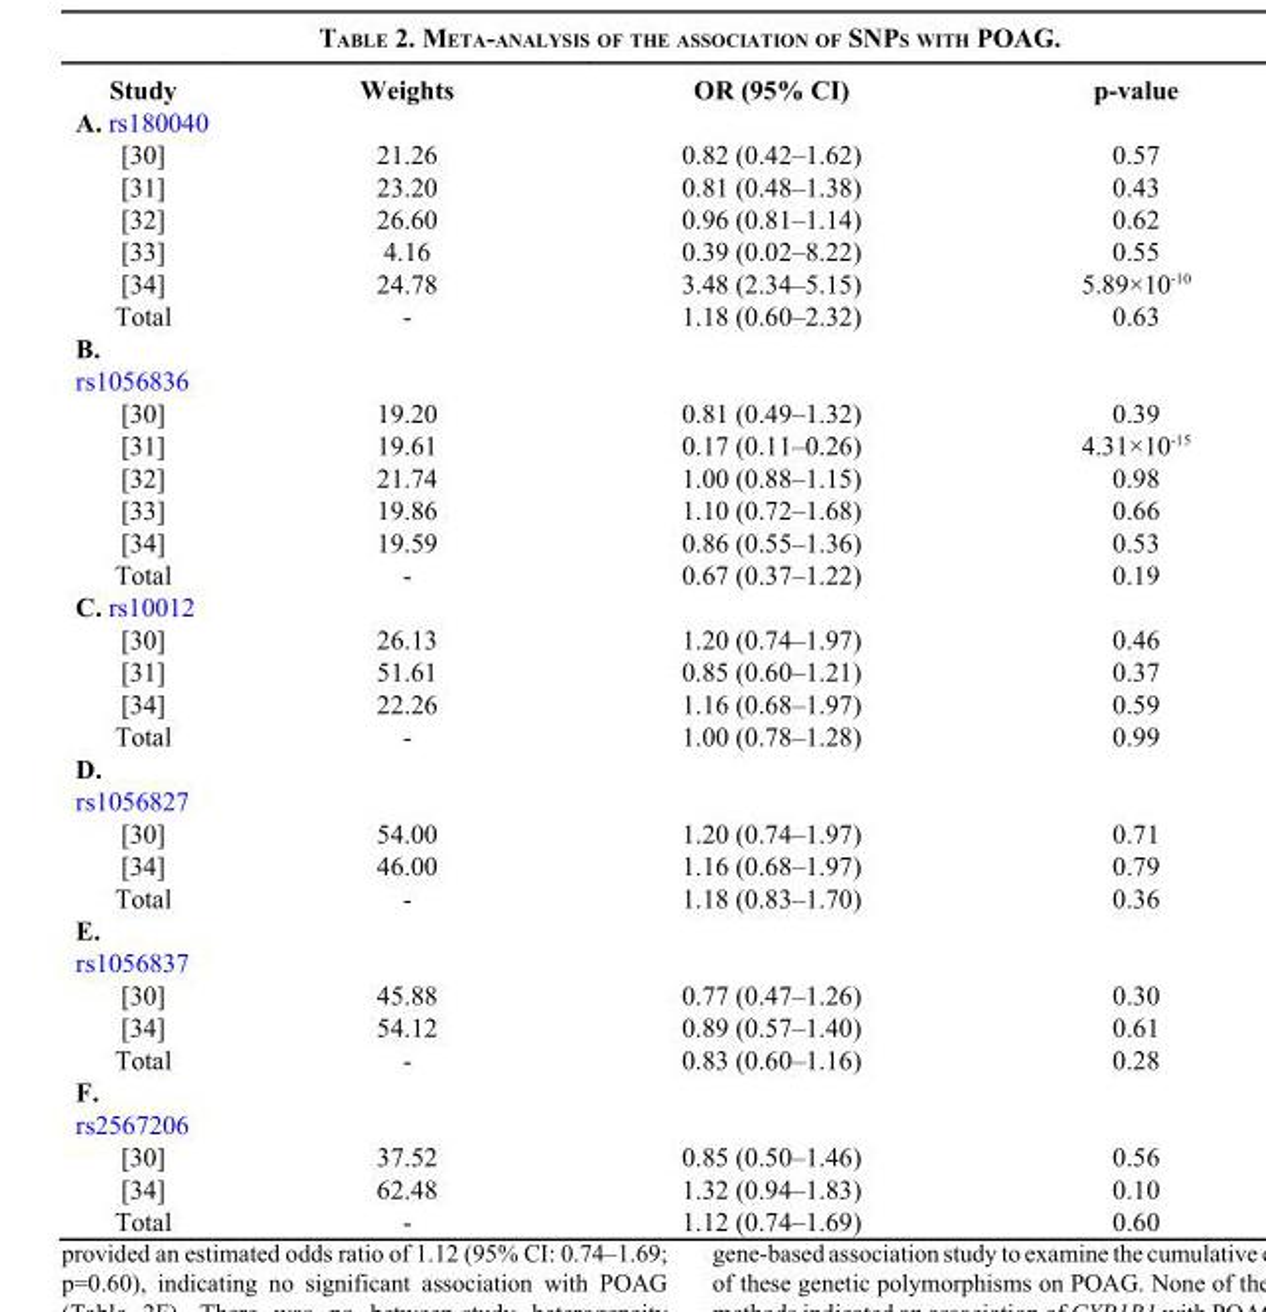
<table><thead><tr><td>Study</td><td>Weights</td><td>OR (95% CI)</td><td>p-value</td></tr></thead><tbody><tr><td colspan="4">A. rs180040</td></tr><tr><td>[30]</td><td>21.26</td><td>0.82 (0.42–1.62)</td><td>0.57</td></tr><tr><td>[31]</td><td>23.20</td><td>0.81 (0.48–1.38)</td><td>0.43</td></tr><tr><td>[32]</td><td>26.60</td><td>0.96 (0.81–1.14)</td><td>0.62</td></tr><tr><td>[33]</td><td>4.16</td><td>0.39 (0.02–8.22)</td><td>0.55</td></tr><tr><td>[34]</td><td>24.78</td><td>3.48 (2.34–5.15)</td><td>5.89×10<sup>-10</sup></td></tr><tr><td>Total</td><td>-</td><td>1.18 (0.60–2.32)</td><td>0.63</td></tr><tr><td colspan="4">B. rs1056836</td></tr><tr><td>[30]</td><td>19.20</td><td>0.81 (0.49–1.32)</td><td>0.39</td></tr><tr><td>[31]</td><td>19.61</td><td>0.17 (0.11–0.26)</td><td>4.31×10<sup>-15</sup></td></tr><tr><td>[32]</td><td>21.74</td><td>1.00 (0.88–1.15)</td><td>0.98</td></tr><tr><td>[33]</td><td>19.86</td><td>1.10 (0.72–1.68)</td><td>0.66</td></tr><tr><td>[34]</td><td>19.59</td><td>0.86 (0.55–1.36)</td><td>0.53</td></tr><tr><td>Total</td><td>-</td><td>0.67 (0.37–1.22)</td><td>0.19</td></tr><tr><td colspan="4">C. rs10012</td></tr><tr><td>[30]</td><td>26.13</td><td>1.20 (0.74–1.97)</td><td>0.46</td></tr><tr><td>[31]</td><td>51.61</td><td>0.85 (0.60–1.21)</td><td>0.37</td></tr><tr><td>[34]</td><td>22.26</td><td>1.16 (0.68–1.97)</td><td>0.59</td></tr><tr><td>Total</td><td>-</td><td>1.00 (0.78–1.28)</td><td>0.99</td></tr><tr><td colspan="4">D. rs1056827</td></tr><tr><td>[30]</td><td>54.00</td><td>1.20 (0.74–1.97)</td><td>0.71</td></tr><tr><td>[34]</td><td>46.00</td><td>1.16 (0.68–1.97)</td><td>0.79</td></tr><tr><td>Total</td><td>-</td><td>1.18 (0.83–1.70)</td><td>0.36</td></tr><tr><td colspan="4">E. rs1056837</td></tr><tr><td>[30]</td><td>45.88</td><td>0.77 (0.47–1.26)</td><td>0.30</td></tr><tr><td>[34]</td><td>54.12</td><td>0.89 (0.57–1.40)</td><td>0.61</td></tr><tr><td>Total</td><td>-</td><td>0.83 (0.60–1.16)</td><td>0.28</td></tr><tr><td colspan="4">F. rs2567206</td></tr><tr><td>[30]</td><td>37.52</td><td>0.85 (0.50–1.46)</td><td>0.56</td></tr><tr><td>[34]</td><td>62.48</td><td>1.32 (0.94–1.83)</td><td>0.10</td></tr><tr><td>Total</td><td>-</td><td>1.12 (0.74–1.69)</td><td>0.60</td></tr></tbody></table>